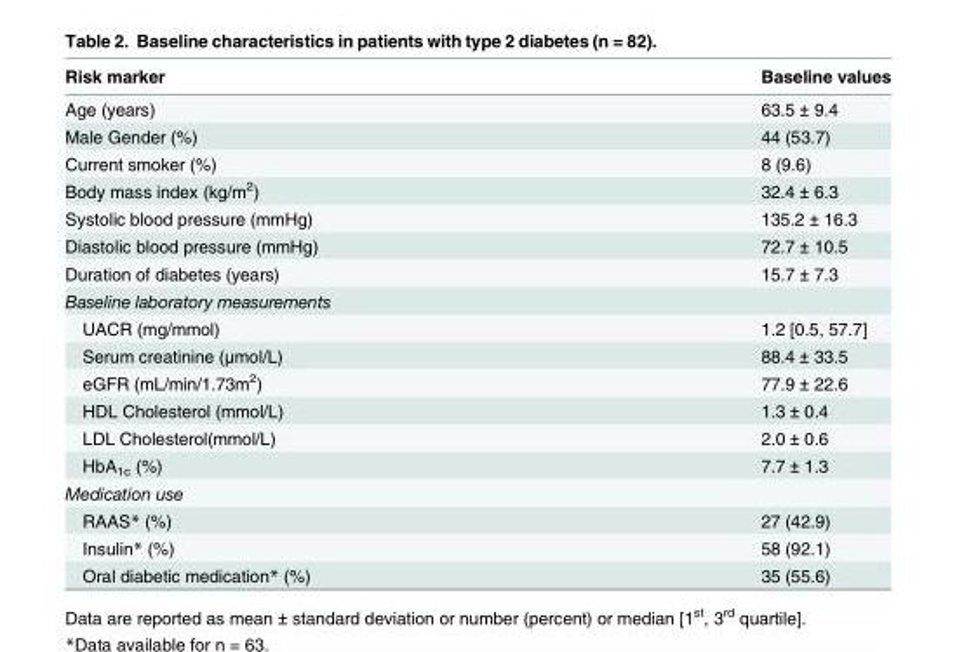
<table><thead><tr><td>Risk marker</td><td>Baseline values</td></tr></thead><tbody><tr><td>Age (years)</td><td>63.5 ± 9.4</td></tr><tr><td>Male Gender (%)</td><td>44 (53.7)</td></tr><tr><td>Current smoker (%)</td><td>8 (9.6)</td></tr><tr><td>Body mass index (kg/m<sup>2</sup>)</td><td>32.4 ± 6.3</td></tr><tr><td>Systolic blood pressure (mmHg)</td><td>135.2 ± 16.3</td></tr><tr><td>Diastolic blood pressure (mmHg)</td><td>72.7 ± 10.5</td></tr><tr><td>Duration of diabetes (years)</td><td>15.7 ± 7.3</td></tr><tr><td colspan="2">Baseline laboratory measurements</td></tr><tr><td>UACR (mg/mmol)</td><td>1.2 [0.5, 57.7]</td></tr><tr><td>Serum creatinine (μmol/L)</td><td>88.4 ± 33.5</td></tr><tr><td>eGFR (mL/min/1.73m<sup>2</sup>)</td><td>77.9 ± 22.6</td></tr><tr><td>HDL Cholesterol (mmol/L)</td><td>1.3 ± 0.4</td></tr><tr><td>LDL Cholesterol(mmol/L)</td><td>2.0 ± 0.6</td></tr><tr><td>HbA<sub>1c</sub> (%)</td><td>7.7 ± 1.3</td></tr><tr><td colspan="2">Medication use</td></tr><tr><td>RAAS* (%)</td><td>27 (42.9)</td></tr><tr><td>Insulin* (%)</td><td>58 (92.1)</td></tr><tr><td>Oral diabetic medication* (%)</td><td>35 (55.6)</td></tr></tbody></table>